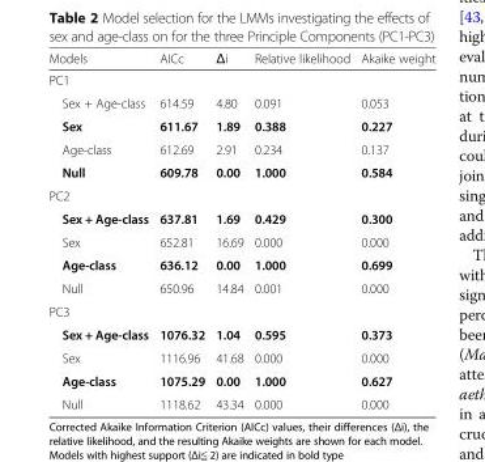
<table><thead><tr><td>Models</td><td>AICc</td><td>Δi</td><td>Relative likelihood</td><td>Akaike weight</td></tr></thead><tbody><tr><td colspan="5">PC1</td></tr><tr><td>Sex + Age-class</td><td>614.59</td><td>4.80</td><td>0.091</td><td>0.053</td></tr><tr><td>Sex</td><td>611.67</td><td>1.89</td><td>0.388</td><td>0.227</td></tr><tr><td>Age-class</td><td>612.69</td><td>2.91</td><td>0.234</td><td>0.137</td></tr><tr><td>Null</td><td>609.78</td><td>0.00</td><td>1.000</td><td>0.584</td></tr><tr><td colspan="5">PC2</td></tr><tr><td>Sex + Age-class</td><td>637.81</td><td>1.69</td><td>0.429</td><td>0.300</td></tr><tr><td>Sex</td><td>652.81</td><td>16.69</td><td>0.000</td><td>0.000</td></tr><tr><td>Age-class</td><td>636.12</td><td>0.00</td><td>1.000</td><td>0.699</td></tr><tr><td>Null</td><td>650.96</td><td>14.84</td><td>0.001</td><td>0.000</td></tr><tr><td colspan="5">PC3</td></tr><tr><td>Sex + Age-class</td><td>1076.32</td><td>1.04</td><td>0.595</td><td>0.373</td></tr><tr><td>Sex</td><td>1116.96</td><td>41.68</td><td>0.000</td><td>0.000</td></tr><tr><td>Age-class</td><td>1075.29</td><td>0.00</td><td>1.000</td><td>0.627</td></tr><tr><td>Null</td><td>1118.62</td><td>43.34</td><td>0.000</td><td>0.000</td></tr></tbody></table>